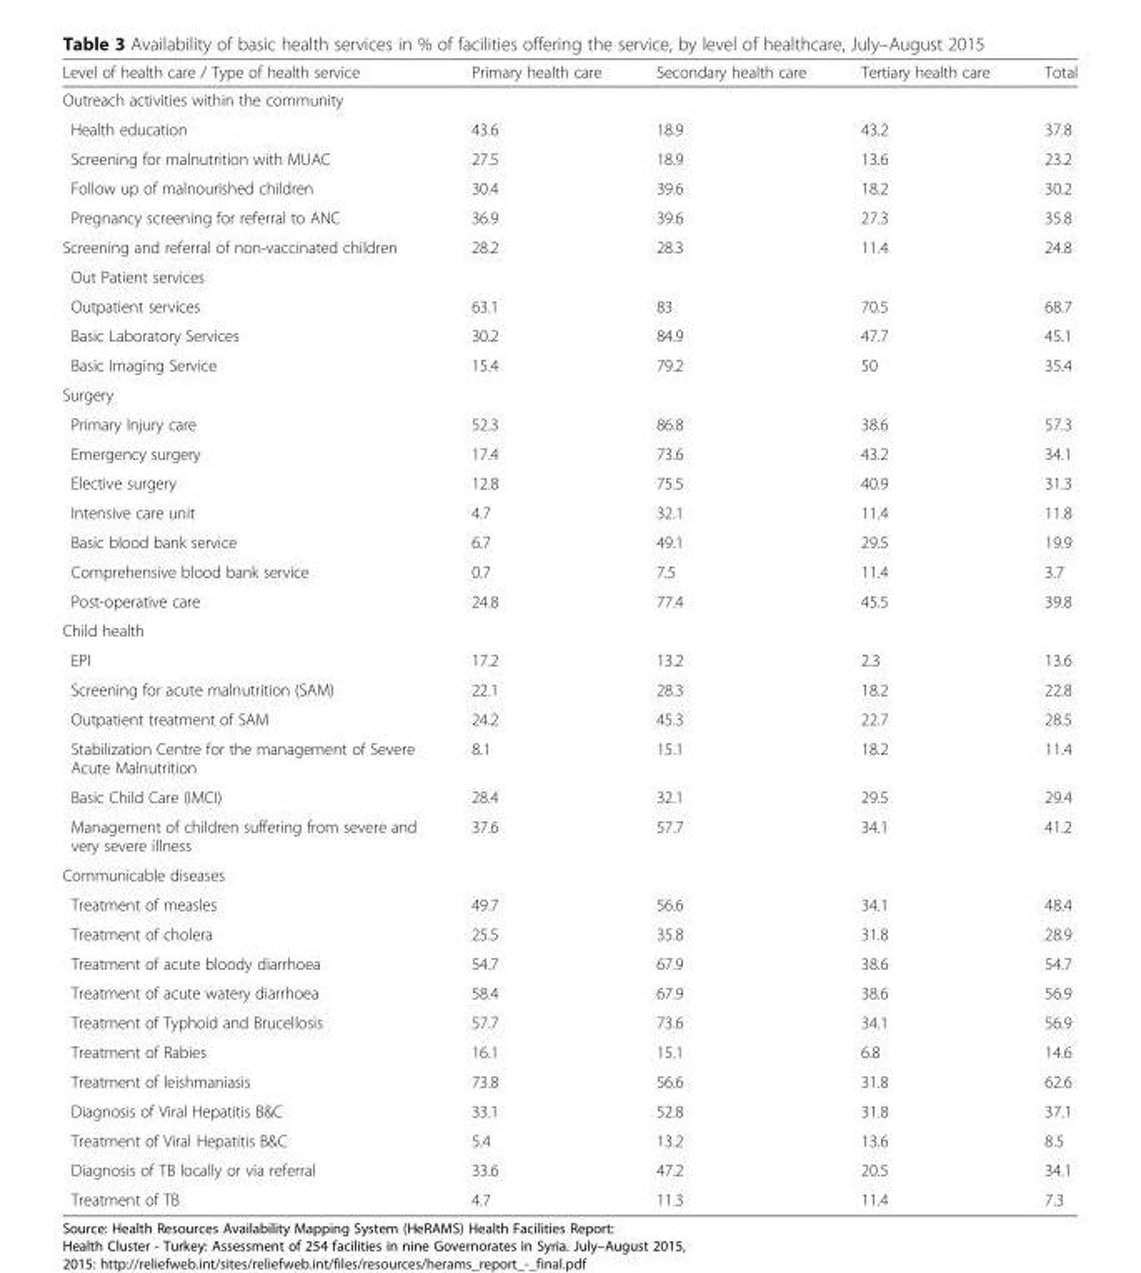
<table><thead><tr><td>Level of health care / Type of health service</td><td>Primary health care</td><td>Secondary health care</td><td>Tertiary health care</td><td>Total</td></tr></thead><tbody><tr><td colspan="5">Outreach activities within the community</td></tr><tr><td>Health education</td><td>43.6</td><td>18.9</td><td>43.2</td><td>37.8</td></tr><tr><td>Screening for malnutrition with MUAC</td><td>27.5</td><td>18.9</td><td>13.6</td><td>23.2</td></tr><tr><td>Follow up of malnourished children</td><td>30.4</td><td>39.6</td><td>18.2</td><td>30.2</td></tr><tr><td>Pregnancy screening for referral to ANC</td><td>36.9</td><td>39.6</td><td>27.3</td><td>35.8</td></tr><tr><td>Screening and referral of non-vaccinated children</td><td>28.2</td><td>28.3</td><td>11.4</td><td>24.8</td></tr><tr><td colspan="5">Out Patient services</td></tr><tr><td>Outpatient services</td><td>63.1</td><td>83</td><td>70.5</td><td>68.7</td></tr><tr><td>Basic Laboratory Services</td><td>30.2</td><td>84.9</td><td>47.7</td><td>45.1</td></tr><tr><td>Basic Imaging Service</td><td>15.4</td><td>79.2</td><td>50</td><td>35.4</td></tr><tr><td colspan="5">Surgery</td></tr><tr><td>Primary Injury care</td><td>52.3</td><td>86.8</td><td>38.6</td><td>57.3</td></tr><tr><td>Emergency surgery</td><td>17.4</td><td>73.6</td><td>43.2</td><td>34.1</td></tr><tr><td>Elective surgery</td><td>12.8</td><td>75.5</td><td>40.9</td><td>31.3</td></tr><tr><td>Intensive care unit</td><td>4.7</td><td>32.1</td><td>11.4</td><td>11.8</td></tr><tr><td>Basic blood bank service</td><td>6.7</td><td>49.1</td><td>29.5</td><td>19.9</td></tr><tr><td>Comprehensive blood bank service</td><td>0.7</td><td>7.5</td><td>11.4</td><td>3.7</td></tr><tr><td>Post-operative care</td><td>24.8</td><td>77.4</td><td>45.5</td><td>39.8</td></tr><tr><td colspan="5">Child health</td></tr><tr><td>EPI</td><td>17.2</td><td>13.2</td><td>2.3</td><td>13.6</td></tr><tr><td>Screening for acute malnutrition (SAM)</td><td>22.1</td><td>28.3</td><td>18.2</td><td>22.8</td></tr><tr><td>Outpatient treatment of SAM</td><td>24.2</td><td>45.3</td><td>22.7</td><td>28.5</td></tr><tr><td>Stabilization Centre for the management of Severe Acute Malnutrition</td><td>8.1</td><td>15.1</td><td>18.2</td><td>11.4</td></tr><tr><td>Basic Child Care (IMCI)</td><td>28.4</td><td>32.1</td><td>29.5</td><td>29.4</td></tr><tr><td>Management of children suffering from severe and very severe illness</td><td>37.6</td><td>57.7</td><td>34.1</td><td>41.2</td></tr><tr><td colspan="5">Communicable diseases</td></tr><tr><td>Treatment of measles</td><td>49.7</td><td>56.6</td><td>34.1</td><td>48.4</td></tr><tr><td>Treatment of cholera</td><td>25.5</td><td>35.8</td><td>31.8</td><td>28.9</td></tr><tr><td>Treatment of acute bloody diarrhoea</td><td>54.7</td><td>67.9</td><td>38.6</td><td>54.7</td></tr><tr><td>Treatment of acute watery diarrhoea</td><td>58.4</td><td>67.9</td><td>38.6</td><td>56.9</td></tr><tr><td>Treatment of Typhoid and Brucellosis</td><td>57.7</td><td>73.6</td><td>34.1</td><td>56.9</td></tr><tr><td>Treatment of Rabies</td><td>16.1</td><td>15.1</td><td>6.8</td><td>14.6</td></tr><tr><td>Treatment of leishmaniasis</td><td>73.8</td><td>56.6</td><td>31.8</td><td>62.6</td></tr><tr><td>Diagnosis of Viral Hepatitis B&amp;C</td><td>33.1</td><td>52.8</td><td>31.8</td><td>37.1</td></tr><tr><td>Treatment of Viral Hepatitis B&amp;C</td><td>5.4</td><td>13.2</td><td>13.6</td><td>8.5</td></tr><tr><td>Diagnosis of TB locally or via referral</td><td>33.6</td><td>47.2</td><td>20.5</td><td>34.1</td></tr><tr><td>Treatment of TB</td><td>4.7</td><td>11.3</td><td>11.4</td><td>7.3</td></tr></tbody></table>